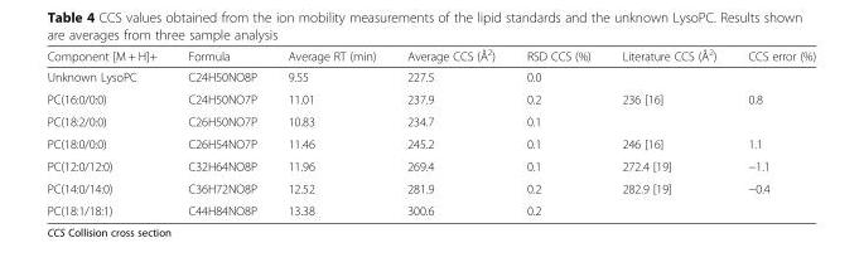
<table><thead><tr><td>Component [M + H]+</td><td>Formula</td><td>Average RT (min)</td><td>Average CCS (Å<sup>2</sup>)</td><td>RSD CCS (%)</td><td>Literature CCS (Å<sup>2</sup>)</td><td>CCS error (%)</td></tr></thead><tbody><tr><td>Unknown LysoPC</td><td>C24H50NO8P</td><td>9.55</td><td>227.5</td><td>0.0</td><td></td><td></td></tr><tr><td>PC(16:0/0:0)</td><td>C24H50NO7P</td><td>11.01</td><td>237.9</td><td>0.2</td><td>236 [16]</td><td>0.8</td></tr><tr><td>PC(18:2/0:0)</td><td>C26H50NO7P</td><td>10.83</td><td>234.7</td><td>0.1</td><td></td><td></td></tr><tr><td>PC(18:0/0:0)</td><td>C26H54NO7P</td><td>11.46</td><td>245.2</td><td>0.1</td><td>246 [16]</td><td>1.1</td></tr><tr><td>PC(12:0/12:0)</td><td>C32H64NO8P</td><td>11.96</td><td>269.4</td><td>0.1</td><td>272.4 [19]</td><td>−1.1</td></tr><tr><td>PC(14:0/14:0)</td><td>C36H72NO8P</td><td>12.52</td><td>281.9</td><td>0.2</td><td>282.9 [19]</td><td>−0.4</td></tr><tr><td>PC(18:1/18:1)</td><td>C44H84NO8P</td><td>13.38</td><td>300.6</td><td>0.2</td><td></td><td></td></tr></tbody></table>